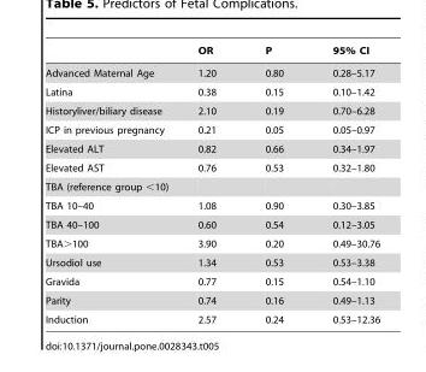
<table><thead><tr><td></td><td>OR</td><td>P</td><td>95% CI</td></tr></thead><tbody><tr><td>Advanced Maternal Age</td><td>1.20</td><td>0.80</td><td>0.28–5.17</td></tr><tr><td>Latina</td><td>0.38</td><td>0.15</td><td>0.10–1.42</td></tr><tr><td>Historyliver/biliary disease</td><td>2.10</td><td>0.19</td><td>0.70–6.28</td></tr><tr><td>ICP in previous pregnancy</td><td>0.21</td><td>0.05</td><td>0.05–0.97</td></tr><tr><td>Elevated ALT</td><td>0.82</td><td>0.66</td><td>0.34–1.97</td></tr><tr><td>Elevated AST</td><td>0.76</td><td>0.53</td><td>0.32–1.80</td></tr><tr><td colspan="4">TBA (reference group &lt;10)</td></tr><tr><td>TBA 10–40</td><td>1.08</td><td>0.90</td><td>0.30–3.85</td></tr><tr><td>TBA 40–100</td><td>0.60</td><td>0.54</td><td>0.12–3.05</td></tr><tr><td>TBA&gt;100</td><td>3.90</td><td>0.20</td><td>0.49–30.76</td></tr><tr><td>Ursodiol use</td><td>1.34</td><td>0.53</td><td>0.53–3.38</td></tr><tr><td>Gravida</td><td>0.77</td><td>0.15</td><td>0.54–1.10</td></tr><tr><td>Parity</td><td>0.74</td><td>0.16</td><td>0.49–1.13</td></tr><tr><td>Induction</td><td>2.57</td><td>0.24</td><td>0.53–12.36</td></tr></tbody></table>